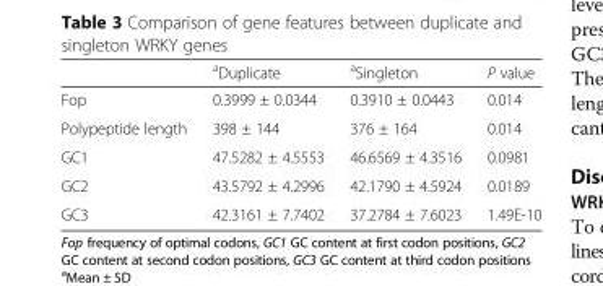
<table><thead><tr><td></td><td><sup>a</sup>Duplicate</td><td><sup>a</sup>Singleton</td><td>P value</td></tr></thead><tbody><tr><td>Fop</td><td>0.3999 ± 0.0344</td><td>0.3910 ± 0.0443</td><td>0.014</td></tr><tr><td>Polypeptide length</td><td>398 ± 144</td><td>376 ± 164</td><td>0.014</td></tr><tr><td>GC1</td><td>47.5282 ± 4.5553</td><td>46.6569 ± 4.3516</td><td>0.0981</td></tr><tr><td>GC2</td><td>43.5792 ± 4.2996</td><td>42.1790 ± 4.5924</td><td>0.0189</td></tr><tr><td>GC3</td><td>42.3161 ± 7.7402</td><td>37.2784 ± 7.6023</td><td>1.49E-10</td></tr></tbody></table>